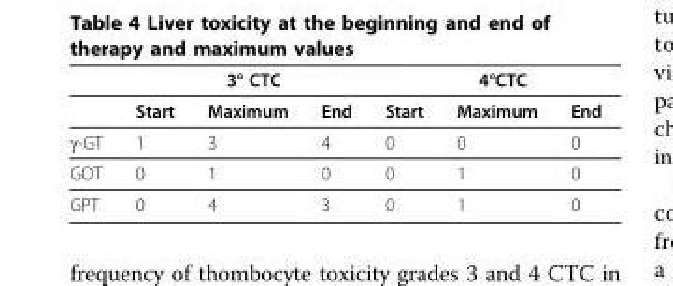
<table><thead><tr><td rowspan="2"></td><td colspan="3">3° CTC</td><td colspan="3">4°CTC</td></tr><tr><td>Start</td><td>Maximum</td><td>End</td><td>Start</td><td>Maximum</td><td>End</td></tr></thead><tbody><tr><td>γ-GT</td><td>1</td><td>3</td><td>4</td><td>0</td><td>0</td><td>0</td></tr><tr><td>GOT</td><td>0</td><td>1</td><td>0</td><td>0</td><td>1</td><td>0</td></tr><tr><td>GPT</td><td>0</td><td>4</td><td>3</td><td>0</td><td>1</td><td>0</td></tr></tbody></table>